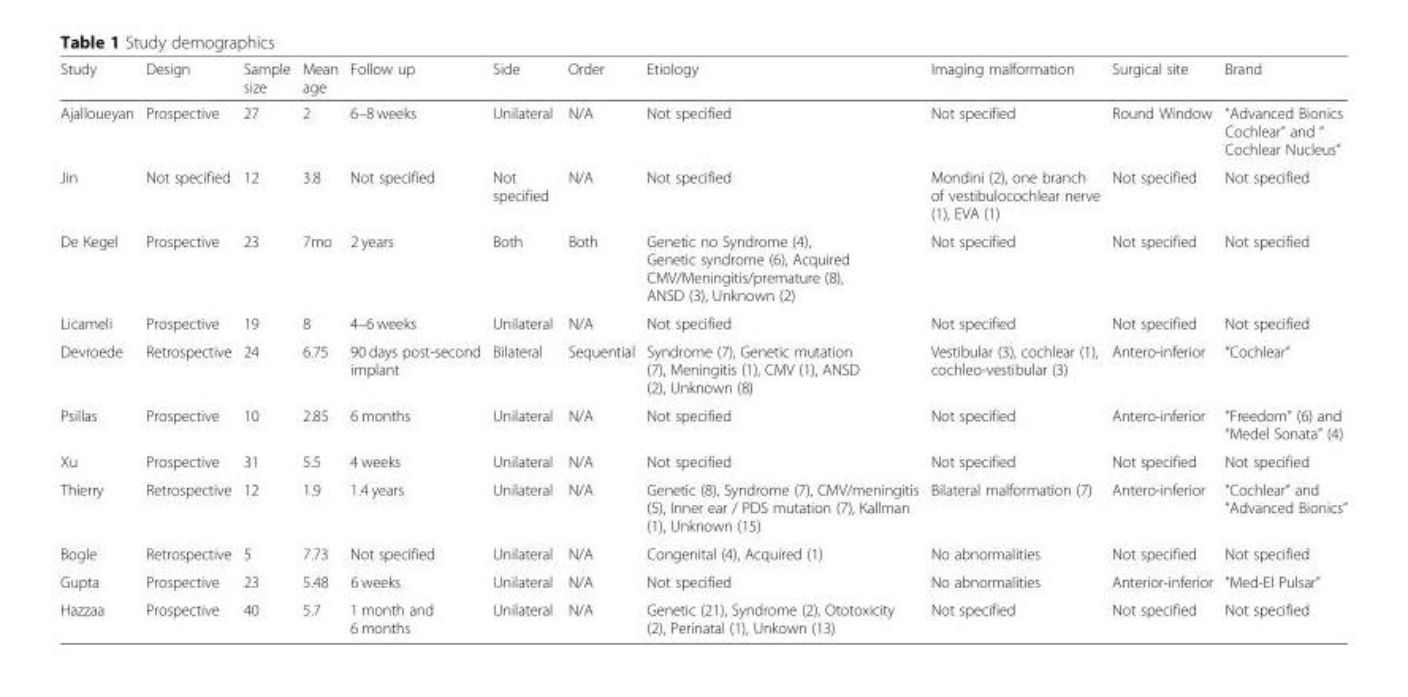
<table><thead><tr><td>Study</td><td>Design</td><td>Sample size</td><td>Mean age</td><td>Follow up</td><td>Side</td><td>Order</td><td>Etiology</td><td>Imaging malformation</td><td>Surgical site</td><td>Brand</td></tr></thead><tbody><tr><td>Ajalloueyan</td><td>Prospective</td><td>27</td><td>2</td><td>6–8 weeks</td><td>Unilateral</td><td>N/A</td><td>Not specified</td><td>Not specified</td><td>Round Window</td><td>“Advanced Bionics Cochlear” and “ Cochlear Nucleus”</td></tr><tr><td>Jin</td><td>Not specified</td><td>12</td><td>3.8</td><td>Not specified</td><td>Not specified</td><td>N/A</td><td>Not specified</td><td>Mondini (2), one branch of vestibulocochlear nerve (1), EVA (1)</td><td>Not specified</td><td>Not specified</td></tr><tr><td>De Kegel</td><td>Prospective</td><td>23</td><td>7mo</td><td>2 years</td><td>Both</td><td>Both</td><td>Genetic no Syndrome (4), Genetic syndrome (6), Acquired CMV/Meningitis/premature (8), ANSD (3), Unknown (2)</td><td>Not specified</td><td>Not specified</td><td>Not specified</td></tr><tr><td>Licameli</td><td>Prospective</td><td>19</td><td>8</td><td>4–6 weeks</td><td>Unilateral</td><td>N/A</td><td>Not specified</td><td>Not specified</td><td>Not specified</td><td>Not specified</td></tr><tr><td>Devroede</td><td>Retrospective</td><td>24</td><td>6.75</td><td>90 days post-second implant</td><td>Bilateral</td><td>Sequential</td><td>Syndrome (7), Genetic mutation (7), Meningitis (1), CMV (1), ANSD (2), Unknown (8)</td><td>Vestibular (3), cochlear (1), cochleo-vestibular (3)</td><td>Antero-inferior</td><td>“Cochlear”</td></tr><tr><td>Psillas</td><td>Prospective</td><td>10</td><td>2.85</td><td>6 months</td><td>Unilateral</td><td>N/A</td><td>Not specified</td><td>Not specified</td><td>Antero-inferior</td><td>“Freedom” (6) and “Medel Sonata” (4)</td></tr><tr><td>Xu</td><td>Prospective</td><td>31</td><td>5.5</td><td>4 weeks</td><td>Unilateral</td><td>N/A</td><td>Not specified</td><td>Not specified</td><td>Not specified</td><td>Not specified</td></tr><tr><td>Thierry</td><td>Retrospective</td><td>12</td><td>1.9</td><td>1.4 years</td><td>Unilateral</td><td>N/A</td><td>Genetic (8), Syndrome (7), CMV/meningitis (5), Inner ear / PDS mutation (7), Kallman (1), Unknown (15)</td><td>Bilateral malformation (7)</td><td>Antero-inferior</td><td>“Cochlear” and “Advanced Bionics”</td></tr><tr><td>Bogle</td><td>Retrospective</td><td>5</td><td>7.73</td><td>Not specified</td><td>Unilateral</td><td>N/A</td><td>Congenital (4), Acquired (1)</td><td>No abnormalities</td><td>Not specified</td><td>Not specified</td></tr><tr><td>Gupta</td><td>Prospective</td><td>23</td><td>5.48</td><td>6 weeks</td><td>Unilateral</td><td>N/A</td><td>Not specified</td><td>No abnormalities</td><td>Anterior-inferior</td><td>“Med-El Pulsar”</td></tr><tr><td>Hazzaa</td><td>Prospective</td><td>40</td><td>5.7</td><td>1 month and 6 months</td><td>Unilateral</td><td>N/A</td><td>Genetic (21), Syndrome (2), Ototoxicity (2), Perinatal (1), Unkown (13)</td><td>Not specified</td><td>Not specified</td><td>Not specified</td></tr></tbody></table>